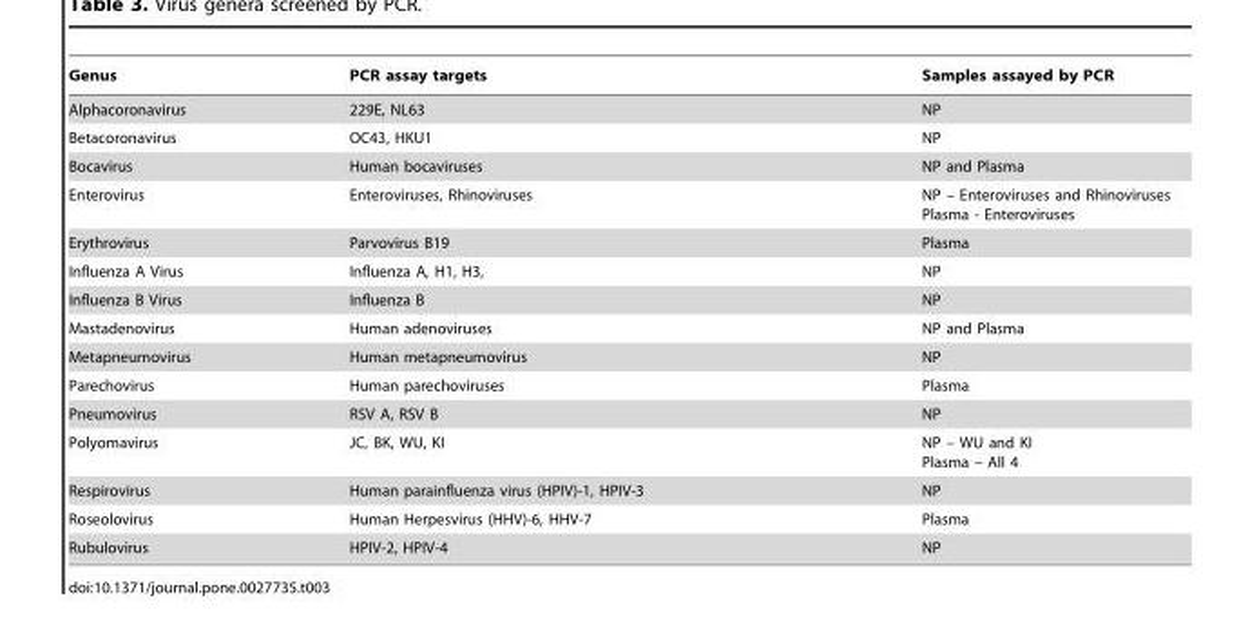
<table><thead><tr><td>Genus</td><td>PCR assay targets</td><td>Samples assayed by PCR</td></tr></thead><tbody><tr><td>Alphacoronavirus</td><td>229E, NL63</td><td>NP</td></tr><tr><td>Betacoronavirus</td><td>OC43, HKU1</td><td>NP</td></tr><tr><td>Bocavirus</td><td>Human bocaviruses</td><td>NP and Plasma</td></tr><tr><td>Enterovirus</td><td>Enteroviruses, Rhinoviruses</td><td>NP – Enteroviruses and Rhinoviruses Plasma - Enteroviruses</td></tr><tr><td>Erythrovirus</td><td>Parvovirus B19</td><td>Plasma</td></tr><tr><td>Influenza A Virus</td><td>Influenza A, H1, H3,</td><td>NP</td></tr><tr><td>Influenza B Virus</td><td>Influenza B</td><td>NP</td></tr><tr><td>Mastadenovirus</td><td>Human adenoviruses</td><td>NP and Plasma</td></tr><tr><td>Metapneumovirus</td><td>Human metapneumovirus</td><td>NP</td></tr><tr><td>Parechovirus</td><td>Human parechoviruses</td><td>Plasma</td></tr><tr><td>Pneumovirus</td><td>RSV A, RSV B</td><td>NP</td></tr><tr><td>Polyomavirus</td><td>JC, BK, WU, KI</td><td>NP – WU and KI Plasma – All 4</td></tr><tr><td>Respirovirus</td><td>Human parainfluenza virus (HPIV)-1, HPIV-3</td><td>NP</td></tr><tr><td>Roseolovirus</td><td>Human Herpesvirus (HHV)-6, HHV-7</td><td>Plasma</td></tr><tr><td>Rubulovirus</td><td>HPIV-2, HPIV-4</td><td>NP</td></tr></tbody></table>